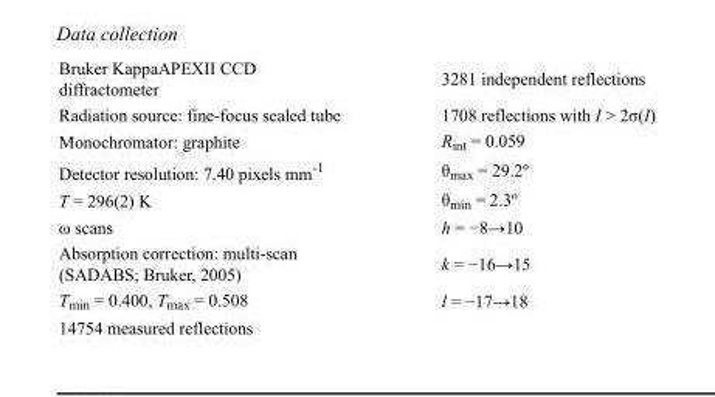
<table><tbody><tr><td>Bruker KappaAPEXII CCD diffractometer</td><td>3281 independent reflections</td></tr><tr><td>Radiation source: fine-focus sealed tube</td><td>1708 reflections with I &gt; 2σ(I)</td></tr><tr><td>Monochromator: graphite</td><td>R<sub>int</sub> = 0.059</td></tr><tr><td>Detector resolution: 7.40 pixels mm<sup>-1</sup></td><td>θ<sub>max</sub> = 29.2º</td></tr><tr><td>T = 296(2) K</td><td>θ<sub>min</sub> = 2.3º</td></tr><tr><td>ω scans</td><td>h = −8→10</td></tr><tr><td>Absorption correction: multi-scan (SADABS; Bruker, 2005)</td><td>k = −16→15</td></tr><tr><td>T<sub>min</sub> = 0.400, T<sub>max</sub> = 0.508</td><td>l = −17→18</td></tr><tr><td>14754 measured reflections</td><td></td></tr></tbody></table>